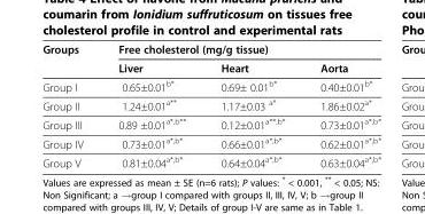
<table><thead><tr><td rowspan="2">Groups</td><td colspan="3">Free cholesterol (mg/g tissue)</td></tr><tr><td>Liver</td><td>Heart</td><td>Aorta</td></tr></thead><tbody><tr><td>Group I</td><td>0.65±0.01<sup>b*</sup></td><td>0.69± 0.01<sup>b*</sup></td><td>0.40±0.01<sup>b*</sup></td></tr><tr><td>Group II</td><td>1.24±0.01<sup>a**</sup></td><td>1.17±0.03 <sup>a*</sup></td><td>1.86±0.02<sup>a*</sup></td></tr><tr><td>Group III</td><td>0.89 ±0.01<sup>a*,b**</sup></td><td>0.12±0.01<sup>a**,b*</sup></td><td>0.73±0.01<sup>a*,b*</sup></td></tr><tr><td>Group IV</td><td>0.73±0.01<sup>a*,b*</sup></td><td>0.66±0.01<sup>a*,b*</sup></td><td>0.62±0.01<sup>a*,b*</sup></td></tr><tr><td>Group V</td><td>0.81±0.04<sup>a*,b*</sup></td><td>0.64±0.04<sup>a*,b*</sup></td><td>0.63±0.04<sup>a*,b*</sup></td></tr></tbody></table>